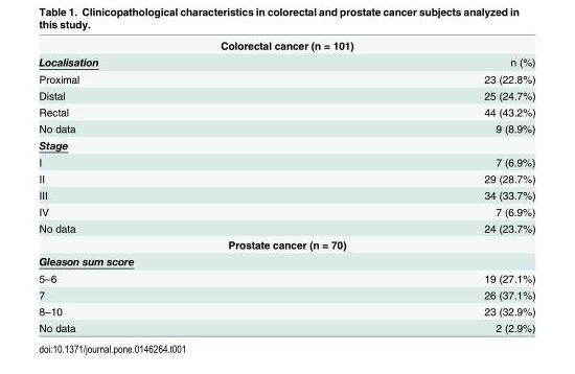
<table><tbody><tr><td colspan="2">Colorectal cancer (n = 101)</td></tr><tr><td>Localisation</td><td>n (%)</td></tr><tr><td>Proximal</td><td>23 (22.8%)</td></tr><tr><td>Distal</td><td>25 (24.7%)</td></tr><tr><td>Rectal</td><td>44 (43.2%)</td></tr><tr><td>No data</td><td>9 (8.9%)</td></tr><tr><td colspan="2">Stage</td></tr><tr><td>I</td><td>7 (6.9%)</td></tr><tr><td>II</td><td>29 (28.7%)</td></tr><tr><td>III</td><td>34 (33.7%)</td></tr><tr><td>IV</td><td>7 (6.9%)</td></tr><tr><td>No data</td><td>24 (23.7%)</td></tr><tr><td colspan="2">Prostate cancer (n = 70)</td></tr><tr><td colspan="2">Gleason sum score</td></tr><tr><td>5–6</td><td>19 (27.1%)</td></tr><tr><td>7</td><td>26 (37.1%)</td></tr><tr><td>8–10</td><td>23 (32.9%)</td></tr><tr><td>No data</td><td>2 (2.9%)</td></tr></tbody></table>